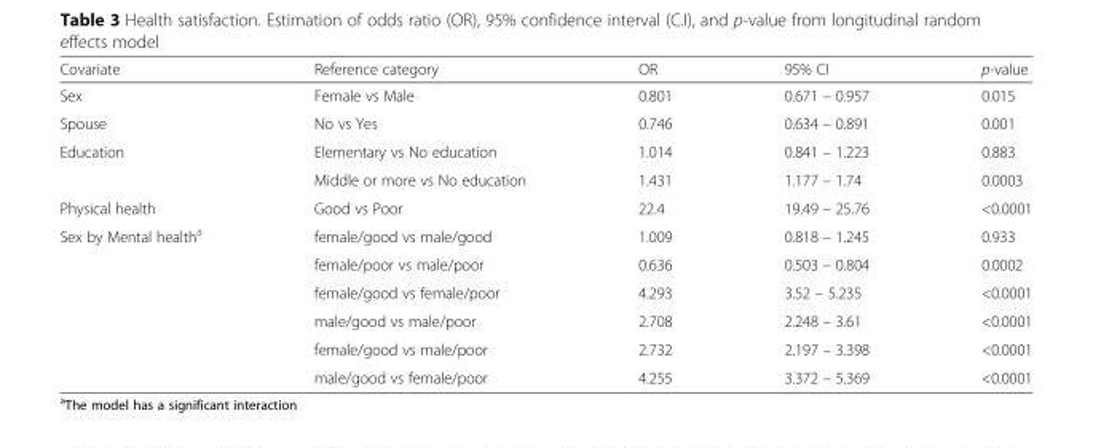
<table><thead><tr><td>Covariate</td><td>Reference category</td><td>OR</td><td>95% CI</td><td>p-value</td></tr></thead><tbody><tr><td>Sex</td><td>Female vs Male</td><td>0.801</td><td>0.671 – 0.957</td><td>0.015</td></tr><tr><td>Spouse</td><td>No vs Yes</td><td>0.746</td><td>0.634 – 0.891</td><td>0.001</td></tr><tr><td rowspan="2">Education</td><td>Elementary vs No education</td><td>1.014</td><td>0.841 – 1.223</td><td>0.883</td></tr><tr><td>Middle or more vs No education</td><td>1.431</td><td>1.177 – 1.74</td><td>0.0003</td></tr><tr><td>Physical health</td><td>Good vs Poor</td><td>22.4</td><td>19.49 – 25.76</td><td>&lt;0.0001</td></tr><tr><td rowspan="6">Sex by Mental health<sup>a</sup></td><td>female/good vs male/good</td><td>1.009</td><td>0.818 – 1.245</td><td>0.933</td></tr><tr><td>female/poor vs male/poor</td><td>0.636</td><td>0.503 – 0.804</td><td>0.0002</td></tr><tr><td>female/good vs female/poor</td><td>4.293</td><td>3.52 – 5.235</td><td>&lt;0.0001</td></tr><tr><td>male/good vs male/poor</td><td>2.708</td><td>2.248 – 3.61</td><td>&lt;0.0001</td></tr><tr><td>female/good vs male/poor</td><td>2.732</td><td>2.197 – 3.398</td><td>&lt;0.0001</td></tr><tr><td>male/good vs female/poor</td><td>4.255</td><td>3.372 – 5.369</td><td>&lt;0.0001</td></tr></tbody></table>